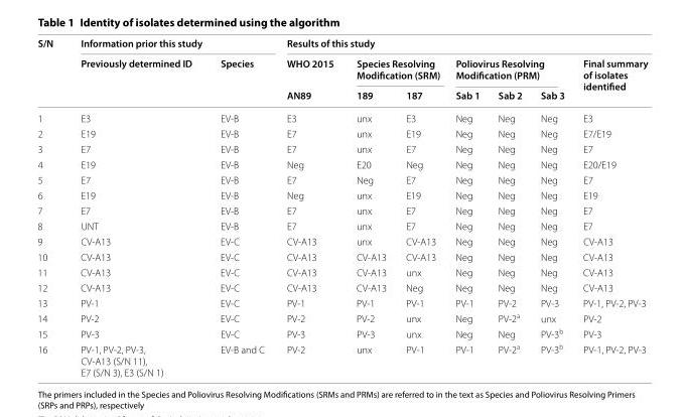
<table><thead><tr><td rowspan="3">S/N</td><td colspan="2">Information prior this study</td><td colspan="7">Results of this study</td></tr><tr><td rowspan="2">Previously determined ID</td><td rowspan="2">Species</td><td rowspan="2">WHO 2015 AN89</td><td colspan="2">Species Resolving Modification (SRM)</td><td colspan="3">Poliovirus Resolving Modification (PRM)</td><td rowspan="2">Final summary of isolates identified</td></tr><tr><td>189</td><td>187</td><td>Sab 1</td><td>Sab 2</td><td>Sab 3</td></tr></thead><tbody><tr><td>1</td><td>E3</td><td>EV-B</td><td>E3</td><td>unx</td><td>E3</td><td>Neg</td><td>Neg</td><td>Neg</td><td>E3</td></tr><tr><td>2</td><td>E19</td><td>EV-B</td><td>E7</td><td>unx</td><td>E19</td><td>Neg</td><td>Neg</td><td>Neg</td><td>E7/E19</td></tr><tr><td>3</td><td>E7</td><td>EV-B</td><td>E7</td><td>unx</td><td>E7</td><td>Neg</td><td>Neg</td><td>Neg</td><td>E7</td></tr><tr><td>4</td><td>E19</td><td>EV-B</td><td>Neg</td><td>E20</td><td>Neg</td><td>Neg</td><td>Neg</td><td>Neg</td><td>E20/E19</td></tr><tr><td>5</td><td>E7</td><td>EV-B</td><td>E7</td><td>Neg</td><td>E7</td><td>Neg</td><td>Neg</td><td>Neg</td><td>E7</td></tr><tr><td>6</td><td>E19</td><td>EV-B</td><td>Neg</td><td>unx</td><td>E19</td><td>Neg</td><td>Neg</td><td>Neg</td><td>E19</td></tr><tr><td>7</td><td>E7</td><td>EV-B</td><td>E7</td><td>unx</td><td>E7</td><td>Neg</td><td>Neg</td><td>Neg</td><td>E7</td></tr><tr><td>8</td><td>UNT</td><td>EV-B</td><td>E7</td><td>unx</td><td>E7</td><td>Neg</td><td>Neg</td><td>Neg</td><td>E7</td></tr><tr><td>9</td><td>CV-A13</td><td>EV-C</td><td>CV-A13</td><td>unx</td><td>CV-A13</td><td>Neg</td><td>Neg</td><td>Neg</td><td>CV-A13</td></tr><tr><td>10</td><td>CV-A13</td><td>EV-C</td><td>CV-A13</td><td>CV-A13</td><td>CV-A13</td><td>Neg</td><td>Neg</td><td>Neg</td><td>CV-A13</td></tr><tr><td>11</td><td>CV-A13</td><td>EV-C</td><td>CV-A13</td><td>CV-A13</td><td>unx</td><td>Neg</td><td>Neg</td><td>Neg</td><td>CV-A13</td></tr><tr><td>12</td><td>CV-A13</td><td>EV-C</td><td>CV-A13</td><td>CV-A13</td><td>Neg</td><td>Neg</td><td>Neg</td><td>Neg</td><td>CV-A13</td></tr><tr><td>13</td><td>PV-1</td><td>EV-C</td><td>PV-1</td><td>PV-1</td><td>PV-1</td><td>PV-1</td><td>PV-2</td><td>PV-3</td><td>PV-1, PV-2, PV-3</td></tr><tr><td>14</td><td>PV-2</td><td>EV-C</td><td>PV-2</td><td>PV-2</td><td>unx</td><td>Neg</td><td>PV-2<sup>a</sup></td><td>unx</td><td>PV-2</td></tr><tr><td>15</td><td>PV-3</td><td>EV-C</td><td>PV-3</td><td>PV-3</td><td>unx</td><td>Neg</td><td>Neg</td><td>PV-3<sup>b</sup></td><td>PV-3</td></tr><tr><td>16</td><td>PV-1, PV-2, PV-3, CV-A13 (S/N 11), E7 (S/N 3), E3 (S/N 1)</td><td>EV-B and C</td><td>PV-2</td><td>unx</td><td>PV-1</td><td>PV-1</td><td>PV-2<sup>a</sup></td><td>PV-3<sup>b</sup></td><td>PV-1, PV-2, PV-3</td></tr></tbody></table>